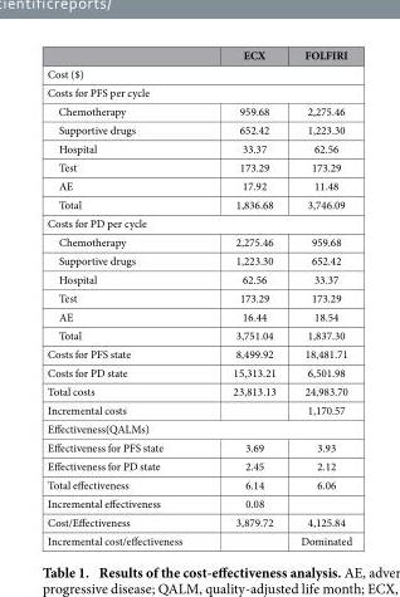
<table><thead><tr><td></td><td>ECX</td><td>FOLFIRI</td></tr></thead><tbody><tr><td colspan="3">Cost ($)</td></tr><tr><td colspan="3">Costs for PFS per cycle</td></tr><tr><td>Chemotherapy</td><td>959.68</td><td>2,275.46</td></tr><tr><td>Supportive drugs</td><td>652.42</td><td>1,223.30</td></tr><tr><td>Hospital</td><td>33.37</td><td>62.56</td></tr><tr><td>Test</td><td>173.29</td><td>173.29</td></tr><tr><td>AE</td><td>17.92</td><td>11.48</td></tr><tr><td>Total</td><td>1,836.68</td><td>3,746.09</td></tr><tr><td colspan="3">Costs for PD per cycle</td></tr><tr><td>Chemotherapy</td><td>2,275.46</td><td>959.68</td></tr><tr><td>Supportive drugs</td><td>1,223.30</td><td>652.42</td></tr><tr><td>Hospital</td><td>62.56</td><td>33.37</td></tr><tr><td>Test</td><td>173.29</td><td>173.29</td></tr><tr><td>AE</td><td>16.44</td><td>18.54</td></tr><tr><td>Total</td><td>3,751.04</td><td>1,837.30</td></tr><tr><td>Costs for PFS state</td><td>8,499.92</td><td>18,481.71</td></tr><tr><td>Costs for PD state</td><td>15,313.21</td><td>6,501.98</td></tr><tr><td>Total costs</td><td>23,813.13</td><td>24,983.70</td></tr><tr><td>Incremental costs</td><td></td><td>1,170.57</td></tr><tr><td colspan="3">Effectiveness(QALMs)</td></tr><tr><td>Effectiveness for PFS state</td><td>3.69</td><td>3.93</td></tr><tr><td>Effectiveness for PD state</td><td>2.45</td><td>2.12</td></tr><tr><td>Total effectiveness</td><td>6.14</td><td>6.06</td></tr><tr><td>Incremental effectiveness</td><td>0.08</td><td></td></tr><tr><td>Cost/Effectiveness</td><td>3,879.72</td><td>4,125.84</td></tr><tr><td>Incremental cost/effectiveness</td><td></td><td>Dominated</td></tr></tbody></table>